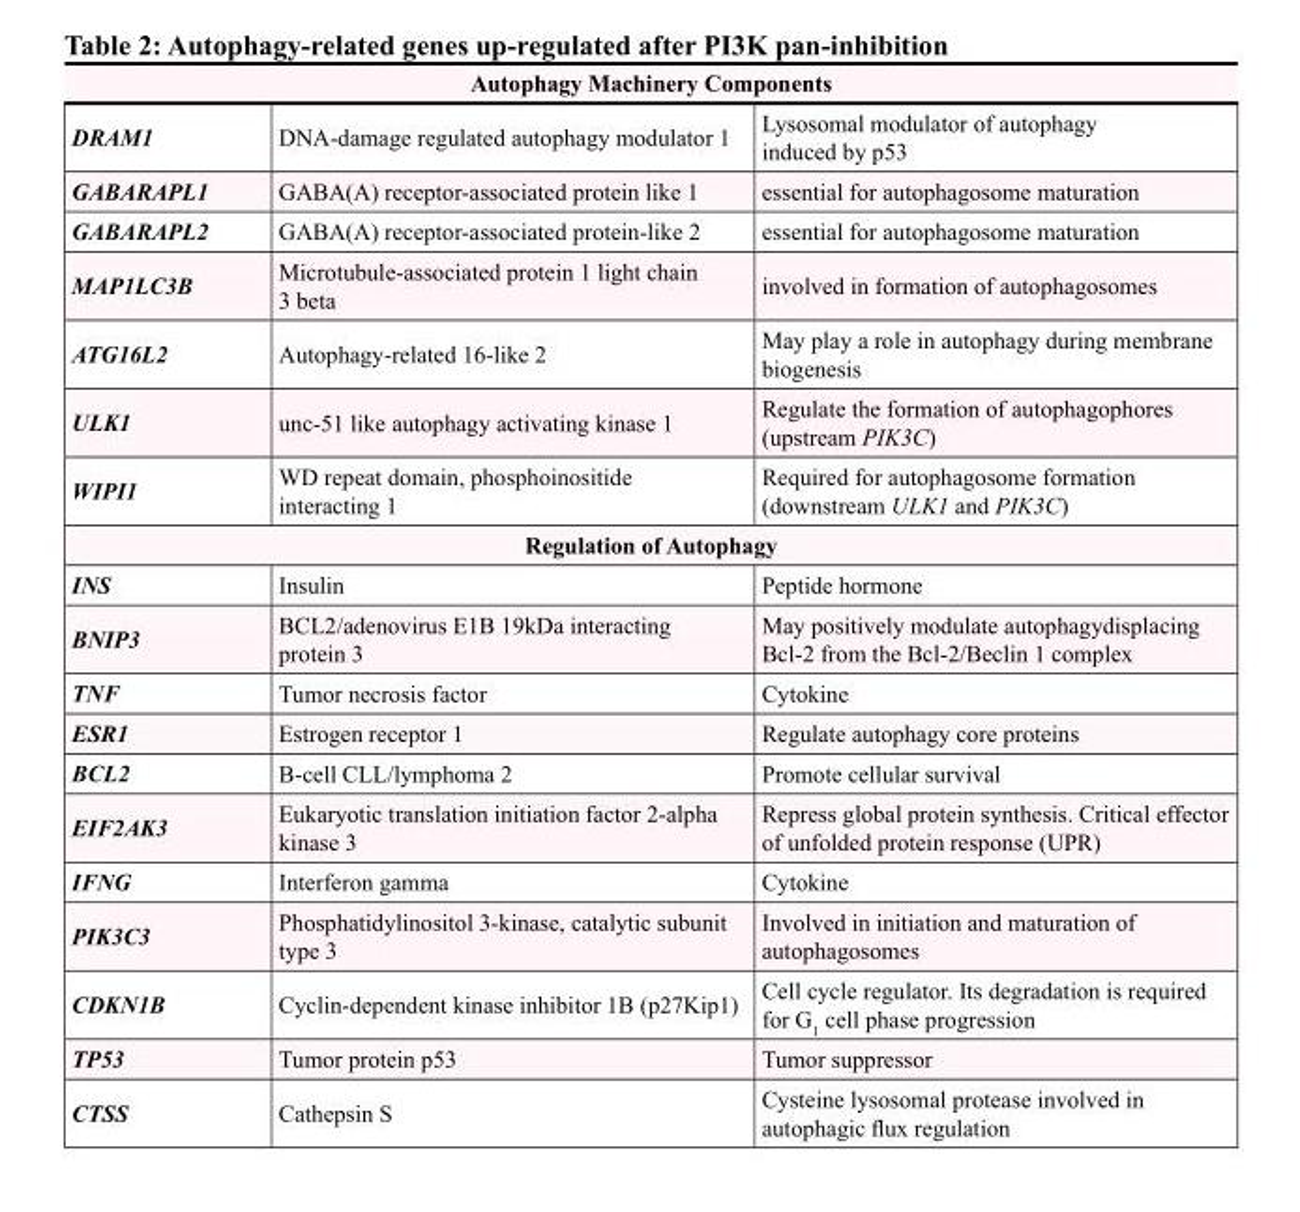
<table><tbody><tr><td colspan="3">Autophagy Machinery Components</td></tr><tr><td>DRAM1</td><td>DNA-damage regulated autophagy modulator 1</td><td>Lysosomal modulator of autophagy induced by p53</td></tr><tr><td>GABARAPL1</td><td>GABA(A) receptor-associated protein like 1</td><td>essential for autophagosome maturation</td></tr><tr><td>GABARAPL2</td><td>GABA(A) receptor-associated protein-like 2</td><td>essential for autophagosome maturation</td></tr><tr><td>MAP1LC3B</td><td>Microtubule-associated protein 1 light chain 3 beta</td><td>involved in formation of autophagosomes</td></tr><tr><td>ATG16L2</td><td>Autophagy-related 16-like 2</td><td>May play a role in autophagy during membrane biogenesis</td></tr><tr><td>ULK1</td><td>unc-51 like autophagy activating kinase 1</td><td>Regulate the formation of autophagophores (upstream PIK3C)</td></tr><tr><td>WIPI1</td><td>WD repeat domain, phosphoinositide interacting 1</td><td>Required for autophagosome formation (downstream ULK1 and PIK3C)</td></tr><tr><td colspan="3">Regulation of Autophagy</td></tr><tr><td>INS</td><td>Insulin</td><td>Peptide hormone</td></tr><tr><td>BNIP3</td><td>BCL2/adenovirus E1B 19kDa interacting protein 3</td><td>May positively modulate autophagydisplacing Bcl-2 from the Bcl-2/Beclin 1 complex</td></tr><tr><td>TNF</td><td>Tumor necrosis factor</td><td>Cytokine</td></tr><tr><td>ESR1</td><td>Estrogen receptor 1</td><td>Regulate autophagy core proteins</td></tr><tr><td>BCL2</td><td>B-cell CLL/lymphoma 2</td><td>Promote cellular survival</td></tr><tr><td>EIF2AK3</td><td>Eukaryotic translation initiation factor 2-alpha kinase 3</td><td>Repress global protein synthesis. Critical effector of unfolded protein response (UPR)</td></tr><tr><td>IFNG</td><td>Interferon gamma</td><td>Cytokine</td></tr><tr><td>PIK3C3</td><td>Phosphatidylinositol 3-kinase, catalytic subunit type 3</td><td>Involved in initiation and maturation of autophagosomes</td></tr><tr><td>CDKN1B</td><td>Cyclin-dependent kinase inhibitor 1B (p27Kip1)</td><td>Cell cycle regulator. Its degradation is required for G<sub>1</sub> cell phase progression</td></tr><tr><td>TP53</td><td>Tumor protein p53</td><td>Tumor suppressor</td></tr><tr><td>CTSS</td><td>Cathepsin S</td><td>Cysteine lysosomal protease involved in autophagic flux regulation</td></tr></tbody></table>